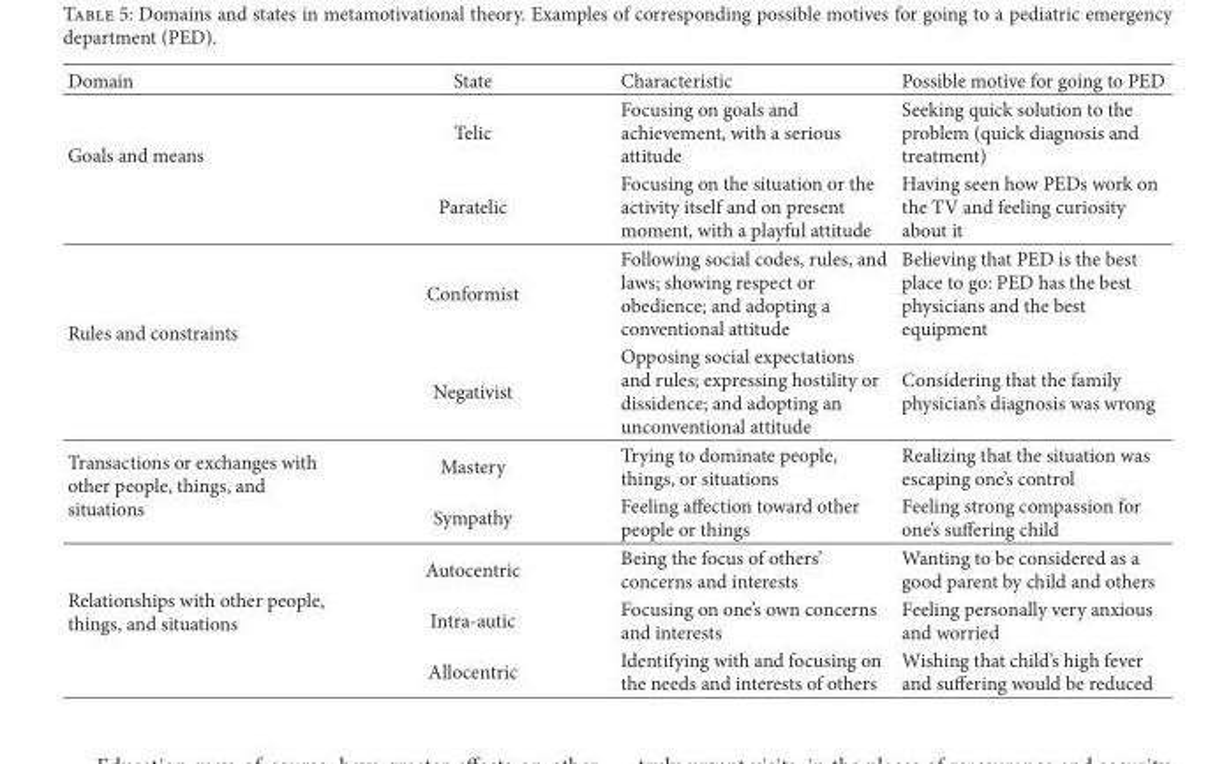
<table><thead><tr><td>Domain</td><td>State</td><td>Characteristic</td><td>Possible motive for going to PED</td></tr></thead><tbody><tr><td rowspan="2">Goals and means</td><td>Telic</td><td>Focusing on goals and achievement, with a serious attitude</td><td>Seeking quick solution to the problem (quick diagnosis and treatment)</td></tr><tr><td>Paratelic</td><td>Focusing on the situation or the activity itself and on present moment, with a playful attitude</td><td>Having seen how PEDs work on the TV and feeling curiosity about it</td></tr><tr><td rowspan="2">Rules and constraints</td><td>Conformist</td><td>Following social codes, rules, and laws; showing respect or obedience; and adopting a conventional attitude</td><td>Believing that PED is the best place to go: PED has the best physicians and the best equipment</td></tr><tr><td>Negativist</td><td>Opposing social expectations and rules; expressing hostility or dissidence; and adopting an unconventional attitude</td><td>Considering that the family physician’s diagnosis was wrong</td></tr><tr><td rowspan="2">Transactions or exchanges with other people, things, and situations</td><td>Mastery</td><td>Trying to dominate people, things, or situations</td><td>Realizing that the situation was escaping one’s control</td></tr><tr><td>Sympathy</td><td>Feeling affection toward other people or things</td><td>Feeling strong compassion for one’s suffering child</td></tr><tr><td rowspan="3">Relationships with other people, things, and situations</td><td>Autocentric</td><td>Being the focus of others’ concerns and interests</td><td>Wanting to be considered as a good parent by child and others</td></tr><tr><td>Intra-autic</td><td>Focusing on one’s own concerns and interests</td><td>Feeling personally very anxious and worried</td></tr><tr><td>Allocentric</td><td>Identifying with and focusing on the needs and interests of others</td><td>Wishing that child’s high fever and suffering would be reduced</td></tr></tbody></table>